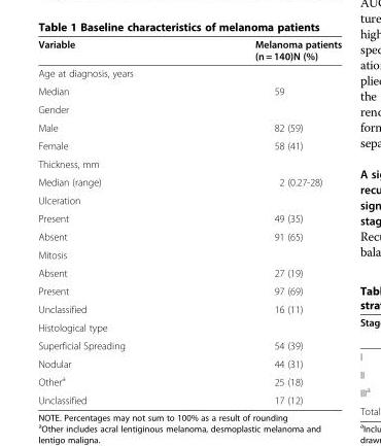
<table><thead><tr><td>Variable</td><td>Melanoma patients (n = 140)N (%)</td></tr></thead><tbody><tr><td colspan="2">Age at diagnosis, years</td></tr><tr><td>Median</td><td>59</td></tr><tr><td colspan="2">Gender</td></tr><tr><td>Male</td><td>82 (59)</td></tr><tr><td>Female</td><td>58 (41)</td></tr><tr><td colspan="2">Thickness, mm</td></tr><tr><td>Median (range)</td><td>2 (0.27-28)</td></tr><tr><td colspan="2">Ulceration</td></tr><tr><td>Present</td><td>49 (35)</td></tr><tr><td>Absent</td><td>91 (65)</td></tr><tr><td colspan="2">Mitosis</td></tr><tr><td>Absent</td><td>27 (19)</td></tr><tr><td>Present</td><td>97 (69)</td></tr><tr><td>Unclassified</td><td>16 (11)</td></tr><tr><td colspan="2">Histological type</td></tr><tr><td>Superficial Spreading</td><td>54 (39)</td></tr><tr><td>Nodular</td><td>44 (31)</td></tr><tr><td>Other<sup>a</sup></td><td>25 (18)</td></tr><tr><td>Unclassified</td><td>17 (12)</td></tr></tbody></table>